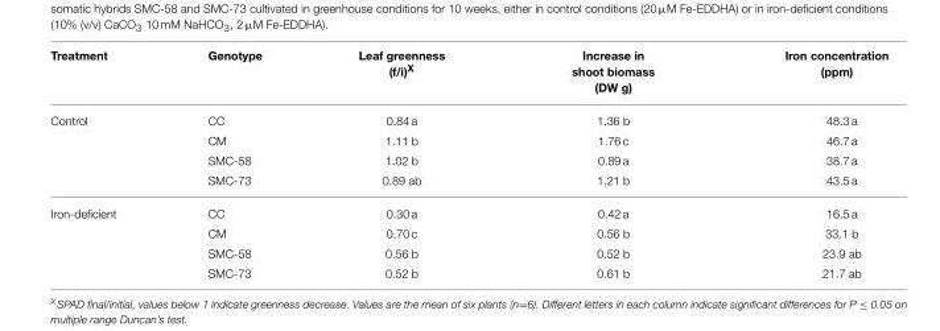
<table><thead><tr><td>Treatment</td><td>Genotype</td><td>Leaf greenness (f/i)<sup>X</sup></td><td>Increase in shoot biomass (DW g)</td><td>Iron concentration (ppm)</td></tr></thead><tbody><tr><td rowspan="4">Control</td><td>CC</td><td>0.84 a</td><td>1.36 b</td><td>48.3 a</td></tr><tr><td>CM</td><td>1.11 b</td><td>1.76 c</td><td>46.7 a</td></tr><tr><td>SMC-58</td><td>1.02 b</td><td>0.89 a</td><td>38.7 a</td></tr><tr><td>SMC-73</td><td>0.89 ab</td><td>1.21 b</td><td>43.5 a</td></tr><tr><td rowspan="4">Iron-deficient</td><td>CC</td><td>0.30 a</td><td>0.42 a</td><td>16.5 a</td></tr><tr><td>CM</td><td>0.70 c</td><td>0.56 b</td><td>33.1 b</td></tr><tr><td>SMC-58</td><td>0.56 b</td><td>0.52 b</td><td>23.9 ab</td></tr><tr><td>SMC-73</td><td>0.52 b</td><td>0.61 b</td><td>21.7 ab</td></tr></tbody></table>